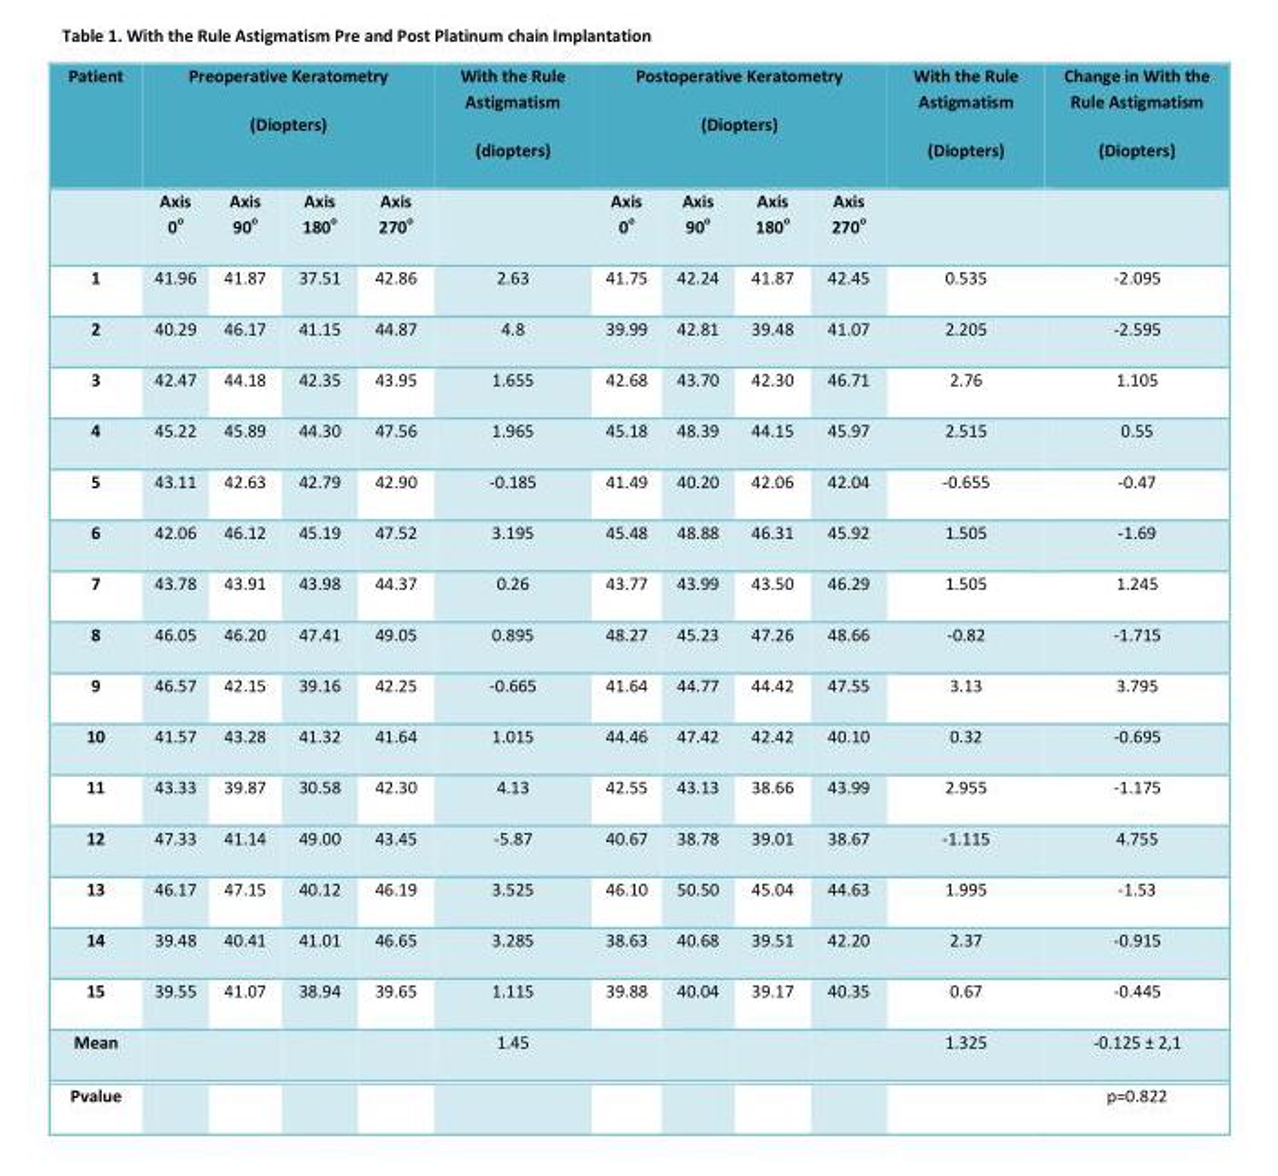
<table><tbody><tr><td rowspan="2">Patient</td><td colspan="4">Preoperative Keratometry (Diopters)</td><td>With the Rule Astigmatism (diopters)</td><td colspan="4">Postoperative Keratometry (Diopters)</td><td>With the Rule Astigmatism (Diopters)</td><td>Change in With the Rule Astigmatism (Diopters)</td></tr><tr><td>Axis 0<sup>ο</sup></td><td>Axis 90<sup>ο</sup></td><td>Axis 180<sup>ο</sup></td><td>Axis 270<sup>ο</sup></td><td></td><td>Axis 0<sup>ο</sup></td><td>Axis 90<sup>ο</sup></td><td>Axis 180<sup>ο</sup></td><td>Axis 270<sup>ο</sup></td><td></td><td></td></tr><tr><td>1</td><td>41.96</td><td>41.87</td><td>37.51</td><td>42.86</td><td>2.63</td><td>41.75</td><td>42.24</td><td>41.87</td><td>42.45</td><td>0.535</td><td>-2.095</td></tr><tr><td>2</td><td>40.29</td><td>46.17</td><td>41.15</td><td>44.87</td><td>4.8</td><td>39.99</td><td>42.81</td><td>39.48</td><td>41.07</td><td>2.205</td><td>-2.595</td></tr><tr><td>3</td><td>42.47</td><td>44.18</td><td>42.35</td><td>43.95</td><td>1.655</td><td>42.68</td><td>43.70</td><td>42.30</td><td>46.71</td><td>2.76</td><td>1.105</td></tr><tr><td>4</td><td>45.22</td><td>45.89</td><td>44.30</td><td>47.56</td><td>1.965</td><td>45.18</td><td>48.39</td><td>44.15</td><td>45.97</td><td>2.515</td><td>0.55</td></tr><tr><td>5</td><td>43.11</td><td>42.63</td><td>42.79</td><td>42.90</td><td>-0.185</td><td>41.49</td><td>40.20</td><td>42.06</td><td>42.04</td><td>-0.655</td><td>-0.47</td></tr><tr><td>6</td><td>42.06</td><td>46.12</td><td>45.19</td><td>47.52</td><td>3.195</td><td>45.48</td><td>48.88</td><td>46.31</td><td>45.92</td><td>1.505</td><td>-1.69</td></tr><tr><td>7</td><td>43.78</td><td>43.91</td><td>43.98</td><td>44.37</td><td>0.26</td><td>43.77</td><td>43.99</td><td>43.50</td><td>46.29</td><td>1.505</td><td>1.245</td></tr><tr><td>8</td><td>46.05</td><td>46.20</td><td>47.41</td><td>49.05</td><td>0.895</td><td>48.27</td><td>45.23</td><td>47.26</td><td>48.66</td><td>-0.82</td><td>-1.715</td></tr><tr><td>9</td><td>46.57</td><td>42.15</td><td>39.16</td><td>42.25</td><td>-0.665</td><td>41.64</td><td>44.77</td><td>44.42</td><td>47.55</td><td>3.13</td><td>3.795</td></tr><tr><td>10</td><td>41.57</td><td>43.28</td><td>41.32</td><td>41.64</td><td>1.015</td><td>44.46</td><td>47.42</td><td>42.42</td><td>40.10</td><td>0.32</td><td>-0.695</td></tr><tr><td>11</td><td>43.33</td><td>39.87</td><td>30.58</td><td>42.30</td><td>4.13</td><td>42.55</td><td>43.13</td><td>38.66</td><td>43.99</td><td>2.955</td><td>-1.175</td></tr><tr><td>12</td><td>47.33</td><td>41.14</td><td>49.00</td><td>43.45</td><td>-5.87</td><td>40.67</td><td>38.78</td><td>39.01</td><td>38.67</td><td>-1.115</td><td>4.755</td></tr><tr><td>13</td><td>46.17</td><td>47.15</td><td>40.12</td><td>46.19</td><td>3.525</td><td>46.10</td><td>50.50</td><td>45.04</td><td>44.63</td><td>1.995</td><td>-1.53</td></tr><tr><td>14</td><td>39.48</td><td>40.41</td><td>41.01</td><td>46.65</td><td>3.285</td><td>38.63</td><td>40.68</td><td>39.51</td><td>42.20</td><td>2.37</td><td>-0.915</td></tr><tr><td>15</td><td>39.55</td><td>41.07</td><td>38.94</td><td>39.65</td><td>1.115</td><td>39.88</td><td>40.04</td><td>39.17</td><td>40.35</td><td>0.67</td><td>-0.445</td></tr><tr><td>Mean</td><td></td><td></td><td></td><td></td><td>1.45</td><td></td><td></td><td></td><td></td><td>1.325</td><td>-0.125 ± 2,1</td></tr><tr><td>Pvalue</td><td></td><td></td><td></td><td></td><td></td><td></td><td></td><td></td><td></td><td></td><td>p=0.822</td></tr></tbody></table>